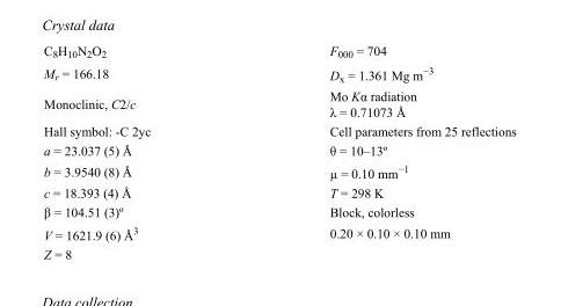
<table><tbody><tr><td>C<sub>8</sub>H<sub>10</sub>N<sub>2</sub>O<sub>2</sub></td><td>F000 = 704</td></tr><tr><td>M<sub>r</sub> = 166.18</td><td>D<sub>x</sub> = 1.361 Mg m<sup>−3</sup></td></tr><tr><td>Monoclinic, C2/c</td><td>Mo Kα radiation λ = 0.71073 Å</td></tr><tr><td>Hall symbol: -C 2yc</td><td>Cell parameters from 25 reflections</td></tr><tr><td>a = 23.037 (5) Å</td><td>θ = 10–13º</td></tr><tr><td>b = 3.9540 (8) Å</td><td>µ = 0.10 mm<sup>−1</sup></td></tr><tr><td>c = 18.393 (4) Å</td><td>T = 298 K</td></tr><tr><td>β = 104.51 (3)º</td><td>Block, colorless</td></tr><tr><td>V = 1621.9 (6) Å<sup>3</sup></td><td>0.20 × 0.10 × 0.10 mm</td></tr><tr><td>Z = 8</td><td></td></tr></tbody></table>